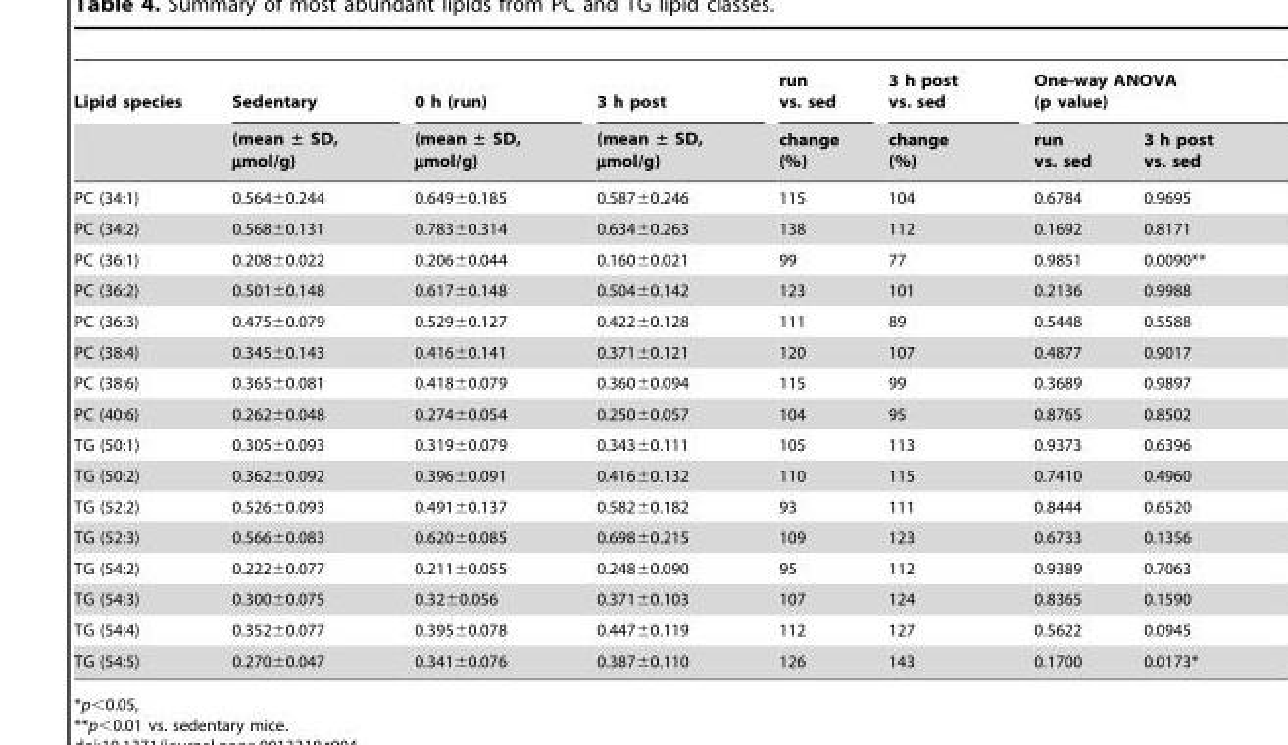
<table><thead><tr><td rowspan="2">Lipid species</td><td rowspan="2">Sedentary (mean ± SD, µmol/g)</td><td rowspan="2">0 h (run) (mean ± SD, µmol/g)</td><td rowspan="2">3 h post (mean ± SD, µmol/g)</td><td rowspan="2">run vs. sed change (%)</td><td rowspan="2">3 h post vs. sed change (%)</td><td colspan="2">One-way ANOVA (p value)</td></tr><tr><td>run vs. sed</td><td>3 h post vs. sed</td></tr></thead><tbody><tr><td>PC (34:1)</td><td>0.564±0.244</td><td>0.649±0.185</td><td>0.587±0.246</td><td>115</td><td>104</td><td>0.6784</td><td>0.9695</td></tr><tr><td>PC (34:2)</td><td>0.568±0.131</td><td>0.783±0.314</td><td>0.634±0.263</td><td>138</td><td>112</td><td>0.1692</td><td>0.8171</td></tr><tr><td>PC (36:1)</td><td>0.208±0.022</td><td>0.206±0.044</td><td>0.160±0.021</td><td>99</td><td>77</td><td>0.9851</td><td>0.0090**</td></tr><tr><td>PC (36:2)</td><td>0.501±0.148</td><td>0.617±0.148</td><td>0.504±0.142</td><td>123</td><td>101</td><td>0.2136</td><td>0.9988</td></tr><tr><td>PC (36:3)</td><td>0.475±0.079</td><td>0.529±0.127</td><td>0.422±0.128</td><td>111</td><td>89</td><td>0.5448</td><td>0.5588</td></tr><tr><td>PC (38:4)</td><td>0.345±0.143</td><td>0.416±0.141</td><td>0.371±0.121</td><td>120</td><td>107</td><td>0.4877</td><td>0.9017</td></tr><tr><td>PC (38:6)</td><td>0.365±0.081</td><td>0.418±0.079</td><td>0.360±0.094</td><td>115</td><td>99</td><td>0.3689</td><td>0.9897</td></tr><tr><td>PC (40:6)</td><td>0.262±0.048</td><td>0.274±0.054</td><td>0.250±0.057</td><td>104</td><td>95</td><td>0.8765</td><td>0.8502</td></tr><tr><td>TG (50:1)</td><td>0.305±0.093</td><td>0.319±0.079</td><td>0.343±0.111</td><td>105</td><td>113</td><td>0.9373</td><td>0.6396</td></tr><tr><td>TG (50:2)</td><td>0.362±0.092</td><td>0.396±0.091</td><td>0.416±0.132</td><td>110</td><td>115</td><td>0.7410</td><td>0.4960</td></tr><tr><td>TG (52:2)</td><td>0.526±0.093</td><td>0.491±0.137</td><td>0.582±0.182</td><td>93</td><td>111</td><td>0.8444</td><td>0.6520</td></tr><tr><td>TG (52:3)</td><td>0.566±0.083</td><td>0.620±0.085</td><td>0.698±0.215</td><td>109</td><td>123</td><td>0.6733</td><td>0.1356</td></tr><tr><td>TG (54:2)</td><td>0.222±0.077</td><td>0.211±0.055</td><td>0.248±0.090</td><td>95</td><td>112</td><td>0.9389</td><td>0.7063</td></tr><tr><td>TG (54:3)</td><td>0.300±0.075</td><td>0.32±0.056</td><td>0.371±0.103</td><td>107</td><td>124</td><td>0.8365</td><td>0.1590</td></tr><tr><td>TG (54:4)</td><td>0.352±0.077</td><td>0.395±0.078</td><td>0.447±0.119</td><td>112</td><td>127</td><td>0.5622</td><td>0.0945</td></tr><tr><td>TG (54:5)</td><td>0.270±0.047</td><td>0.341±0.076</td><td>0.387±0.110</td><td>126</td><td>143</td><td>0.1700</td><td>0.0173*</td></tr></tbody></table>